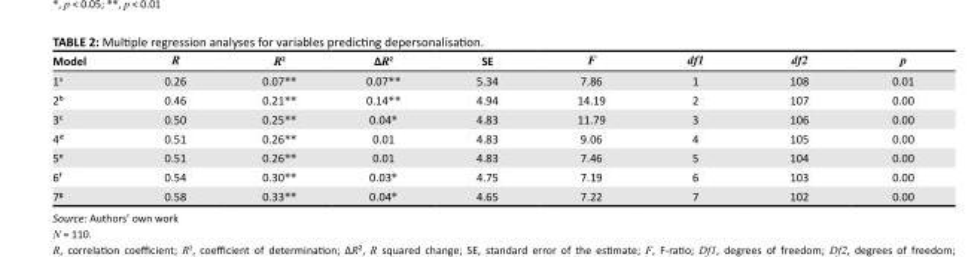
<table><thead><tr><td>Model</td><td>R</td><td>R<sup>2</sup></td><td>ΔR<sup>2</sup></td><td>SE</td><td>F</td><td>df1</td><td>df2</td><td>p</td></tr></thead><tbody><tr><td>1<sup>a</sup></td><td>0.26</td><td>0.07**</td><td>0.07**</td><td>5.34</td><td>7.86</td><td>1</td><td>108</td><td>0.01</td></tr><tr><td>2<sup>ᵇ</sup></td><td>0.46</td><td>0.21**</td><td>0.14**</td><td>4.94</td><td>14.19</td><td>2</td><td>107</td><td>0.00</td></tr><tr><td>3<sup>ᶜ</sup></td><td>0.50</td><td>0.25**</td><td>0.04*</td><td>4.83</td><td>11.79</td><td>3</td><td>106</td><td>0.00</td></tr><tr><td>4<sup>ᵈ</sup></td><td>0.51</td><td>0.26**</td><td>0.01</td><td>4.83</td><td>9.06</td><td>4</td><td>105</td><td>0.00</td></tr><tr><td>5<sup>ᵉ</sup></td><td>0.51</td><td>0.26**</td><td>0.01</td><td>4.83</td><td>7.46</td><td>5</td><td>104</td><td>0.00</td></tr><tr><td>6<sup>ᶠ</sup></td><td>0.54</td><td>0.30**</td><td>0.03*</td><td>4.75</td><td>7.19</td><td>6</td><td>103</td><td>0.00</td></tr><tr><td>7ᶢ</td><td>0.58</td><td>0.33**</td><td>0.04*</td><td>4.65</td><td>7.22</td><td>7</td><td>102</td><td>0.00</td></tr></tbody></table>